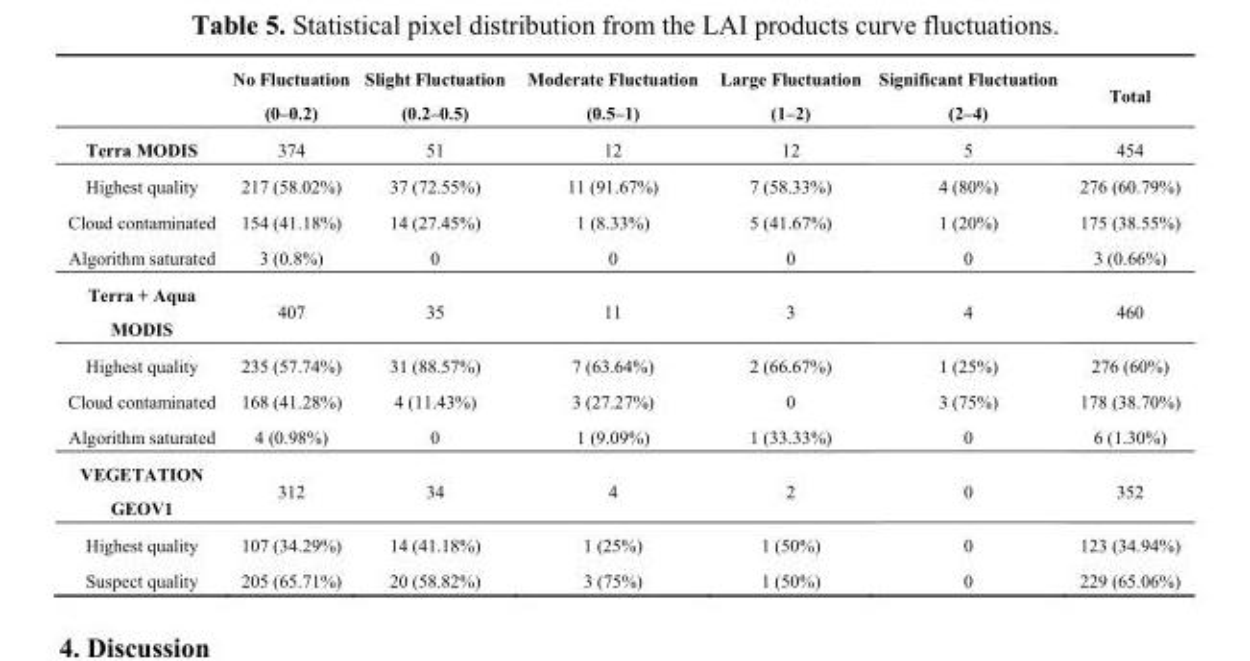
<table><thead><tr><td></td><td>No Fluctuation (0–0.2)</td><td>Slight Fluctuation (0.2–0.5)</td><td>Moderate Fluctuation (0.5–1)</td><td>Large Fluctuation (1–2)</td><td>Significant Fluctuation (2–4)</td><td>Total</td></tr></thead><tbody><tr><td>Terra MODIS</td><td>374</td><td>51</td><td>12</td><td>12</td><td>5</td><td>454</td></tr><tr><td>Highest quality</td><td>217 (58.02%)</td><td>37 (72.55%)</td><td>11 (91.67%)</td><td>7 (58.33%)</td><td>4 (80%)</td><td>276 (60.79%)</td></tr><tr><td>Cloud contaminated</td><td>154 (41.18%)</td><td>14 (27.45%)</td><td>1 (8.33%)</td><td>5 (41.67%)</td><td>1 (20%)</td><td>175 (38.55%)</td></tr><tr><td>Algorithm saturated</td><td>3 (0.8%)</td><td>0</td><td>0</td><td>0</td><td>0</td><td>3 (0.66%)</td></tr><tr><td>Terra + Aqua MODIS</td><td>407</td><td>35</td><td>11</td><td>3</td><td>4</td><td>460</td></tr><tr><td>Highest quality</td><td>235 (57.74%)</td><td>31 (88.57%)</td><td>7 (63.64%)</td><td>2 (66.67%)</td><td>1 (25%)</td><td>276 (60%)</td></tr><tr><td>Cloud contaminated</td><td>168 (41.28%)</td><td>4 (11.43%)</td><td>3 (27.27%)</td><td>0</td><td>3 (75%)</td><td>178 (38.70%)</td></tr><tr><td>Algorithm saturated</td><td>4 (0.98%)</td><td>0</td><td>1 (9.09%)</td><td>1 (33.33%)</td><td>0</td><td>6 (1.30%)</td></tr><tr><td>VEGETATION GEOV1</td><td>312</td><td>34</td><td>4</td><td>2</td><td>0</td><td>352</td></tr><tr><td>Highest quality</td><td>107 (34.29%)</td><td>14 (41.18%)</td><td>1 (25%)</td><td>1 (50%)</td><td>0</td><td>123 (34.94%)</td></tr><tr><td>Suspect quality</td><td>205 (65.71%)</td><td>20 (58.82%)</td><td>3 (75%)</td><td>1 (50%)</td><td>0</td><td>229 (65.06%)</td></tr></tbody></table>